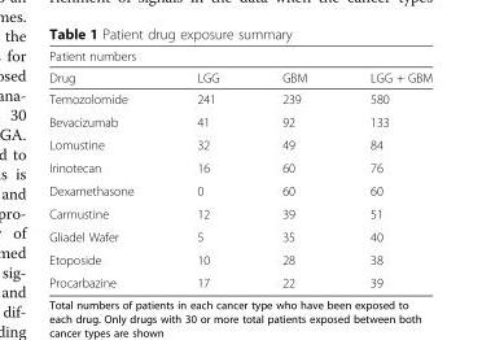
<table><thead><tr><td colspan="4">Patient numbers</td></tr><tr><td>Drug</td><td>LGG</td><td>GBM</td><td>LGG + GBM</td></tr></thead><tbody><tr><td>Temozolomide</td><td>241</td><td>239</td><td>580</td></tr><tr><td>Bevacizumab</td><td>41</td><td>92</td><td>133</td></tr><tr><td>Lomustine</td><td>32</td><td>49</td><td>84</td></tr><tr><td>Irinotecan</td><td>16</td><td>60</td><td>76</td></tr><tr><td>Dexamethasone</td><td>0</td><td>60</td><td>60</td></tr><tr><td>Carmustine</td><td>12</td><td>39</td><td>51</td></tr><tr><td>Gliadel Wafer</td><td>5</td><td>35</td><td>40</td></tr><tr><td>Etoposide</td><td>10</td><td>28</td><td>38</td></tr><tr><td>Procarbazine</td><td>17</td><td>22</td><td>39</td></tr></tbody></table>